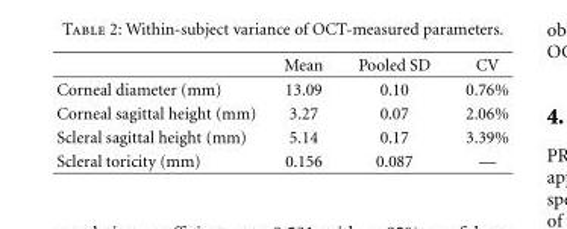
<table><thead><tr><td></td><td>Mean</td><td>Pooled SD</td><td>CV</td></tr></thead><tbody><tr><td>Corneal diameter (mm)</td><td>13.09</td><td>0.10</td><td>0.76%</td></tr><tr><td>Corneal sagittal height (mm)</td><td>3.27</td><td>0.07</td><td>2.06%</td></tr><tr><td>Scleral sagittal height (mm)</td><td>5.14</td><td>0.17</td><td>3.39%</td></tr><tr><td>Scleral toricity (mm)</td><td>0.156</td><td>0.087</td><td>—</td></tr></tbody></table>